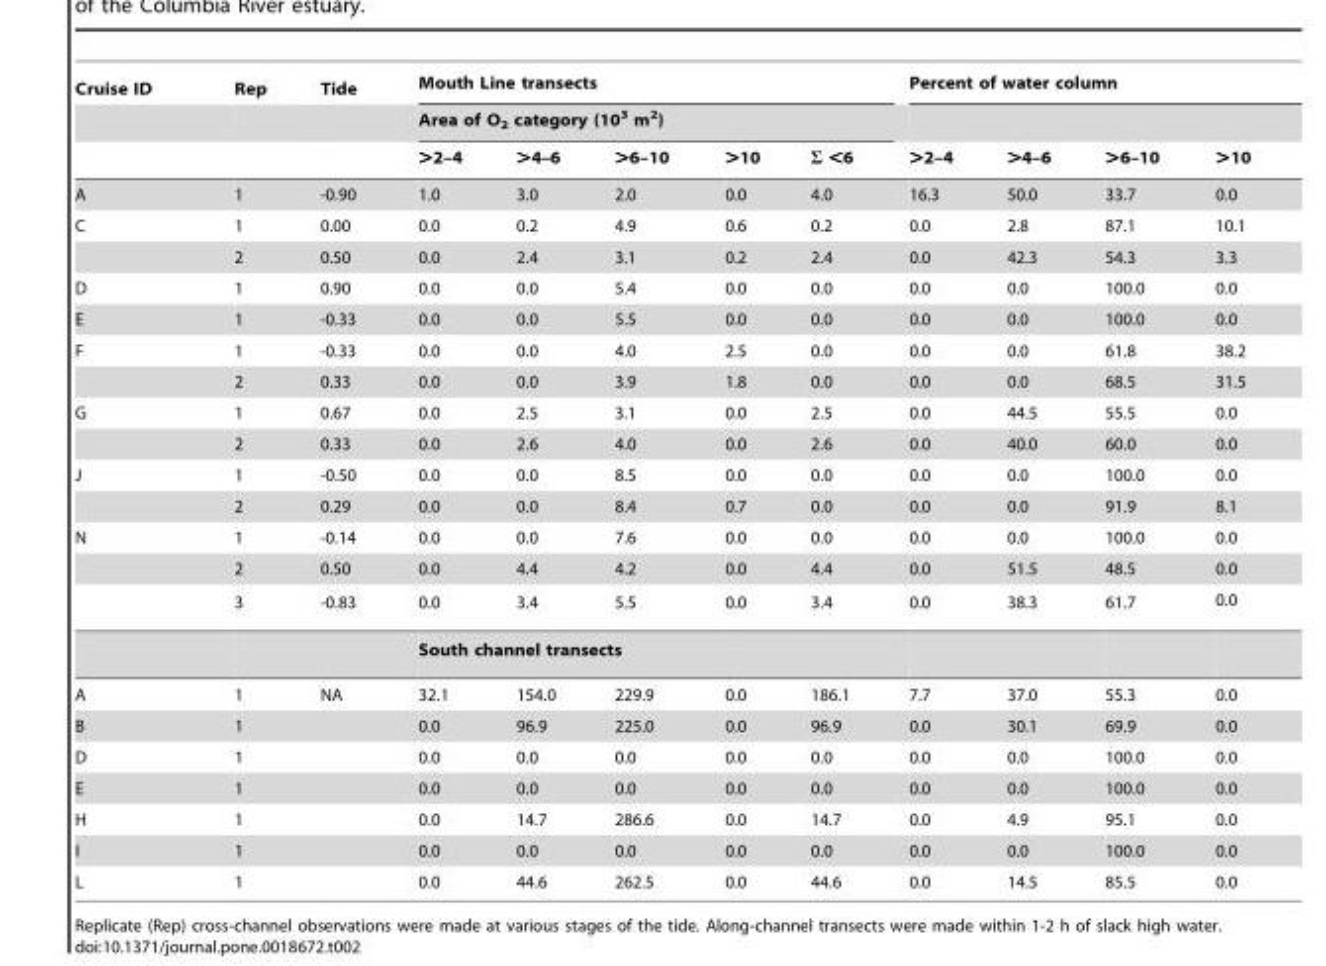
<table><thead><tr><td rowspan="3">Cruise ID</td><td rowspan="3">Rep</td><td rowspan="3">Tide</td><td rowspan="2" colspan="5">Mouth Line transects Area of O<sub>2</sub> category (10<sup>3</sup> m<sup>2</sup>)</td><td colspan="4">Percent of water column</td></tr><tr><td rowspan="2">&gt;2–4</td><td rowspan="2">&gt;4–6</td><td rowspan="2">&gt;6–10</td><td rowspan="2">&gt;10</td></tr><tr><td>&gt;2–4</td><td>&gt;4–6</td><td>&gt;6–10</td><td>&gt;10</td><td>Σ &lt;6</td></tr></thead><tbody><tr><td>A</td><td>1</td><td>-0.90</td><td>1.0</td><td>3.0</td><td>2.0</td><td>0.0</td><td>4.0</td><td>16.3</td><td>50.0</td><td>33.7</td><td>0.0</td></tr><tr><td rowspan="2">C</td><td>1</td><td>0.00</td><td>0.0</td><td>0.2</td><td>4.9</td><td>0.6</td><td>0.2</td><td>0.0</td><td>2.8</td><td>87.1</td><td>10.1</td></tr><tr><td>2</td><td>0.50</td><td>0.0</td><td>2.4</td><td>3.1</td><td>0.2</td><td>2.4</td><td>0.0</td><td>42.3</td><td>54.3</td><td>3.3</td></tr><tr><td>D</td><td>1</td><td>0.90</td><td>0.0</td><td>0.0</td><td>5.4</td><td>0.0</td><td>0.0</td><td>0.0</td><td>0.0</td><td>100.0</td><td>0.0</td></tr><tr><td>E</td><td>1</td><td>-0.33</td><td>0.0</td><td>0.0</td><td>5.5</td><td>0.0</td><td>0.0</td><td>0.0</td><td>0.0</td><td>100.0</td><td>0.0</td></tr><tr><td rowspan="2">F</td><td>1</td><td>-0.33</td><td>0.0</td><td>0.0</td><td>4.0</td><td>2.5</td><td>0.0</td><td>0.0</td><td>0.0</td><td>61.8</td><td>38.2</td></tr><tr><td>2</td><td>0.33</td><td>0.0</td><td>0.0</td><td>3.9</td><td>1.8</td><td>0.0</td><td>0.0</td><td>0.0</td><td>68.5</td><td>31.5</td></tr><tr><td rowspan="2">G</td><td>1</td><td>0.67</td><td>0.0</td><td>2.5</td><td>3.1</td><td>0.0</td><td>2.5</td><td>0.0</td><td>44.5</td><td>55.5</td><td>0.0</td></tr><tr><td>2</td><td>0.33</td><td>0.0</td><td>2.6</td><td>4.0</td><td>0.0</td><td>2.6</td><td>0.0</td><td>40.0</td><td>60.0</td><td>0.0</td></tr><tr><td rowspan="2">J</td><td>1</td><td>-0.50</td><td>0.0</td><td>0.0</td><td>8.5</td><td>0.0</td><td>0.0</td><td>0.0</td><td>0.0</td><td>100.0</td><td>0.0</td></tr><tr><td>2</td><td>0.29</td><td>0.0</td><td>0.0</td><td>8.4</td><td>0.7</td><td>0.0</td><td>0.0</td><td>0.0</td><td>91.9</td><td>8.1</td></tr><tr><td rowspan="4">N</td><td>1</td><td>-0.14</td><td>0.0</td><td>0.0</td><td>7.6</td><td>0.0</td><td>0.0</td><td>0.0</td><td>0.0</td><td>100.0</td><td>0.0</td></tr><tr><td>2</td><td>0.50</td><td>0.0</td><td>4.4</td><td>4.2</td><td>0.0</td><td>4.4</td><td>0.0</td><td>51.5</td><td>48.5</td><td>0.0</td></tr><tr><td>3</td><td>-0.83</td><td>0.0</td><td>3.4</td><td>5.5</td><td>0.0</td><td>3.4</td><td>0.0</td><td>38.3</td><td>61.7</td><td>0.0</td></tr><tr><td></td><td></td><td colspan="5">South channel transects</td><td></td><td></td><td></td><td></td></tr><tr><td>A</td><td>1</td><td>NA</td><td>32.1</td><td>154.0</td><td>229.9</td><td>0.0</td><td>186.1</td><td>7.7</td><td>37.0</td><td>55.3</td><td>0.0</td></tr><tr><td>B</td><td>1</td><td></td><td>0.0</td><td>96.9</td><td>225.0</td><td>0.0</td><td>96.9</td><td>0.0</td><td>30.1</td><td>69.9</td><td>0.0</td></tr><tr><td>D</td><td>1</td><td></td><td>0.0</td><td>0.0</td><td>0.0</td><td>0.0</td><td>0.0</td><td>0.0</td><td>0.0</td><td>100.0</td><td>0.0</td></tr><tr><td>E</td><td>1</td><td></td><td>0.0</td><td>0.0</td><td>0.0</td><td>0.0</td><td>0.0</td><td>0.0</td><td>0.0</td><td>100.0</td><td>0.0</td></tr><tr><td>H</td><td>1</td><td></td><td>0.0</td><td>14.7</td><td>286.6</td><td>0.0</td><td>14.7</td><td>0.0</td><td>4.9</td><td>95.1</td><td>0.0</td></tr><tr><td>I</td><td>1</td><td></td><td>0.0</td><td>0.0</td><td>0.0</td><td>0.0</td><td>0.0</td><td>0.0</td><td>0.0</td><td>100.0</td><td>0.0</td></tr><tr><td>L</td><td>1</td><td></td><td>0.0</td><td>44.6</td><td>262.5</td><td>0.0</td><td>44.6</td><td>0.0</td><td>14.5</td><td>85.5</td><td>0.0</td></tr></tbody></table>